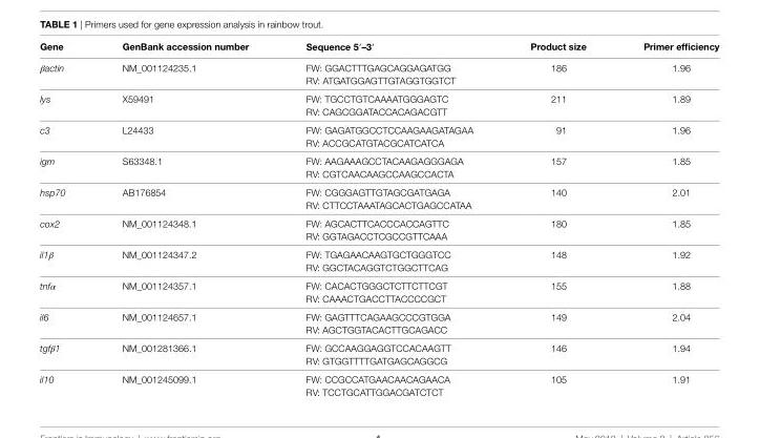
<table><thead><tr><td>gene</td><td>genBank accession number</td><td>sequence 5′–3′</td><td>Product size</td><td>Primer efficiency</td></tr></thead><tbody><tr><td rowspan="2">βactin</td><td>NM_001124235.1</td><td>FW: GGACTTTGAGCAGGAGATGG</td><td>186</td><td>1.96</td></tr><tr><td></td><td>RV: ATGATGGAGTTGTAGGTGGTCT</td><td></td><td></td></tr><tr><td rowspan="2">lys</td><td>X59491</td><td>FW: TGCCTGTCAAAATGGGAGTC</td><td>211</td><td>1.89</td></tr><tr><td></td><td>RV: CAGCGGATACCACAGACGTT</td><td></td><td></td></tr><tr><td rowspan="2">c3</td><td>L24433</td><td>FW: GAGATGGCCTCCAAGAAGATAGAA</td><td>91</td><td>1.96</td></tr><tr><td></td><td>RV: ACCGCATGTACGCATCATCA</td><td></td><td></td></tr><tr><td rowspan="2">igm</td><td>S63348.1</td><td>FW: AAGAAAGCCTACAAGAGGGAGA</td><td>157</td><td>1.85</td></tr><tr><td></td><td>RV: CGTCAACAAGCCAAGCCACTA</td><td></td><td></td></tr><tr><td rowspan="2">hsp70</td><td>AB176854</td><td>FW: CGGGAGTTGTAGCGATGAGA</td><td>140</td><td>2.01</td></tr><tr><td></td><td>RV: CTTCCTAAATAGCACTGAGCCATAA</td><td></td><td></td></tr><tr><td rowspan="2">cox2</td><td>NM_001124348.1</td><td>FW: AGCACTTCACCCACCAGTTC</td><td>180</td><td>1.85</td></tr><tr><td></td><td>RV: GGTAGACCTCGCCGTTCAAA</td><td></td><td></td></tr><tr><td rowspan="2">il1β</td><td>NM_001124347.2</td><td>FW: TGAGAACAAGTGCTGGGTCC</td><td>148</td><td>1.92</td></tr><tr><td></td><td>RV: GGCTACAGGTCTGGCTTCAG</td><td></td><td></td></tr><tr><td rowspan="2">tnfα</td><td>NM_001124357.1</td><td>FW: CACACTGGGCTCTTCTTCGT</td><td>155</td><td>1.88</td></tr><tr><td></td><td>RV: CAAACTGACCTTACCCCGCT</td><td></td><td></td></tr><tr><td rowspan="2">il6</td><td>NM_001124657.1</td><td>FW: GAGTTTCAGAAGCCCGTGGA</td><td>149</td><td>2.04</td></tr><tr><td></td><td>RV: AGCTGGTACACTTGCAGACC</td><td></td><td></td></tr><tr><td rowspan="2">tgfβ1</td><td>NM_001281366.1</td><td>FW: GCCAAGGAGGTCCACAAGTT</td><td>146</td><td>1.94</td></tr><tr><td></td><td>RV: GTGGTTTTGATGAGCAGGCG</td><td></td><td></td></tr><tr><td rowspan="2">il10</td><td>NM_001245099.1</td><td>FW: CCGCCATGAACAACAGAACA</td><td>105</td><td>1.91</td></tr><tr><td></td><td>RV: TCCTGCATTGGACGATCTCT</td><td></td><td></td></tr></tbody></table>